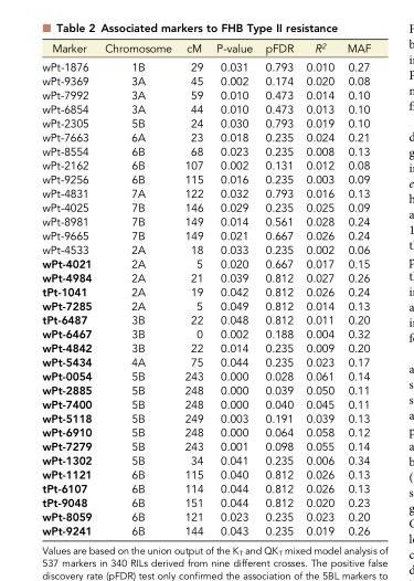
<table><thead><tr><td>Marker</td><td>Chromosome</td><td>cM</td><td>P-value</td><td>pFDR</td><td>R<sup>2</sup></td><td>MAF</td></tr></thead><tbody><tr><td>wPt-1876</td><td>1B</td><td>29</td><td>0.031</td><td>0.793</td><td>0.010</td><td>0.27</td></tr><tr><td>wPt-9369</td><td>3A</td><td>45</td><td>0.002</td><td>0.174</td><td>0.020</td><td>0.08</td></tr><tr><td>wPt-7992</td><td>3A</td><td>59</td><td>0.010</td><td>0.473</td><td>0.014</td><td>0.10</td></tr><tr><td>wPt-6854</td><td>3A</td><td>44</td><td>0.010</td><td>0.473</td><td>0.013</td><td>0.10</td></tr><tr><td>wPt-2305</td><td>5B</td><td>24</td><td>0.030</td><td>0.793</td><td>0.019</td><td>0.10</td></tr><tr><td>wPt-7663</td><td>6A</td><td>23</td><td>0.018</td><td>0.235</td><td>0.024</td><td>0.21</td></tr><tr><td>wPt-8554</td><td>6B</td><td>68</td><td>0.023</td><td>0.235</td><td>0.008</td><td>0.13</td></tr><tr><td>wPt-2162</td><td>6B</td><td>107</td><td>0.002</td><td>0.131</td><td>0.012</td><td>0.08</td></tr><tr><td>wPt-9256</td><td>6B</td><td>115</td><td>0.016</td><td>0.235</td><td>0.003</td><td>0.09</td></tr><tr><td>wPt-4831</td><td>7A</td><td>122</td><td>0.032</td><td>0.793</td><td>0.016</td><td>0.13</td></tr><tr><td>wPt-4025</td><td>7B</td><td>146</td><td>0.029</td><td>0.235</td><td>0.025</td><td>0.09</td></tr><tr><td>wPt-8981</td><td>7B</td><td>149</td><td>0.014</td><td>0.561</td><td>0.028</td><td>0.24</td></tr><tr><td>wPt-9665</td><td>7B</td><td>149</td><td>0.021</td><td>0.667</td><td>0.026</td><td>0.24</td></tr><tr><td>wPt-4533</td><td>2A</td><td>18</td><td>0.033</td><td>0.235</td><td>0.002</td><td>0.06</td></tr><tr><td>wPt-4021</td><td>2A</td><td>5</td><td>0.020</td><td>0.667</td><td>0.017</td><td>0.15</td></tr><tr><td>wPt-4984</td><td>2A</td><td>21</td><td>0.039</td><td>0.812</td><td>0.027</td><td>0.26</td></tr><tr><td>tPt-1041</td><td>2A</td><td>19</td><td>0.042</td><td>0.812</td><td>0.026</td><td>0.24</td></tr><tr><td>wPt-7285</td><td>2A</td><td>5</td><td>0.049</td><td>0.812</td><td>0.014</td><td>0.13</td></tr><tr><td>tPt-6487</td><td>3B</td><td>22</td><td>0.048</td><td>0.812</td><td>0.011</td><td>0.20</td></tr><tr><td>wPt-6467</td><td>3B</td><td>0</td><td>0.002</td><td>0.188</td><td>0.004</td><td>0.32</td></tr><tr><td>wPt-4842</td><td>3B</td><td>22</td><td>0.014</td><td>0.235</td><td>0.009</td><td>0.20</td></tr><tr><td>wPt-5434</td><td>4A</td><td>75</td><td>0.044</td><td>0.235</td><td>0.023</td><td>0.17</td></tr><tr><td>wPt-0054</td><td>5B</td><td>243</td><td>0.000</td><td>0.028</td><td>0.061</td><td>0.14</td></tr><tr><td>wPt-2885</td><td>5B</td><td>248</td><td>0.000</td><td>0.039</td><td>0.050</td><td>0.11</td></tr><tr><td>wPt-7400</td><td>5B</td><td>248</td><td>0.000</td><td>0.040</td><td>0.045</td><td>0.11</td></tr><tr><td>wPt-5118</td><td>5B</td><td>249</td><td>0.003</td><td>0.191</td><td>0.039</td><td>0.13</td></tr><tr><td>wPt-6910</td><td>5B</td><td>248</td><td>0.000</td><td>0.064</td><td>0.058</td><td>0.12</td></tr><tr><td>wPt-7279</td><td>5B</td><td>243</td><td>0.001</td><td>0.098</td><td>0.055</td><td>0.14</td></tr><tr><td>wPt-1302</td><td>5B</td><td>34</td><td>0.041</td><td>0.235</td><td>0.006</td><td>0.34</td></tr><tr><td>wPt-1121</td><td>6B</td><td>115</td><td>0.040</td><td>0.812</td><td>0.026</td><td>0.13</td></tr><tr><td>tPt-6107</td><td>6B</td><td>114</td><td>0.044</td><td>0.812</td><td>0.026</td><td>0.13</td></tr><tr><td>tPt-9048</td><td>6B</td><td>151</td><td>0.044</td><td>0.812</td><td>0.020</td><td>0.23</td></tr><tr><td>wPt-8059</td><td>6B</td><td>121</td><td>0.023</td><td>0.235</td><td>0.023</td><td>0.20</td></tr><tr><td>wPt-9241</td><td>6B</td><td>144</td><td>0.043</td><td>0.235</td><td>0.019</td><td>0.26</td></tr></tbody></table>